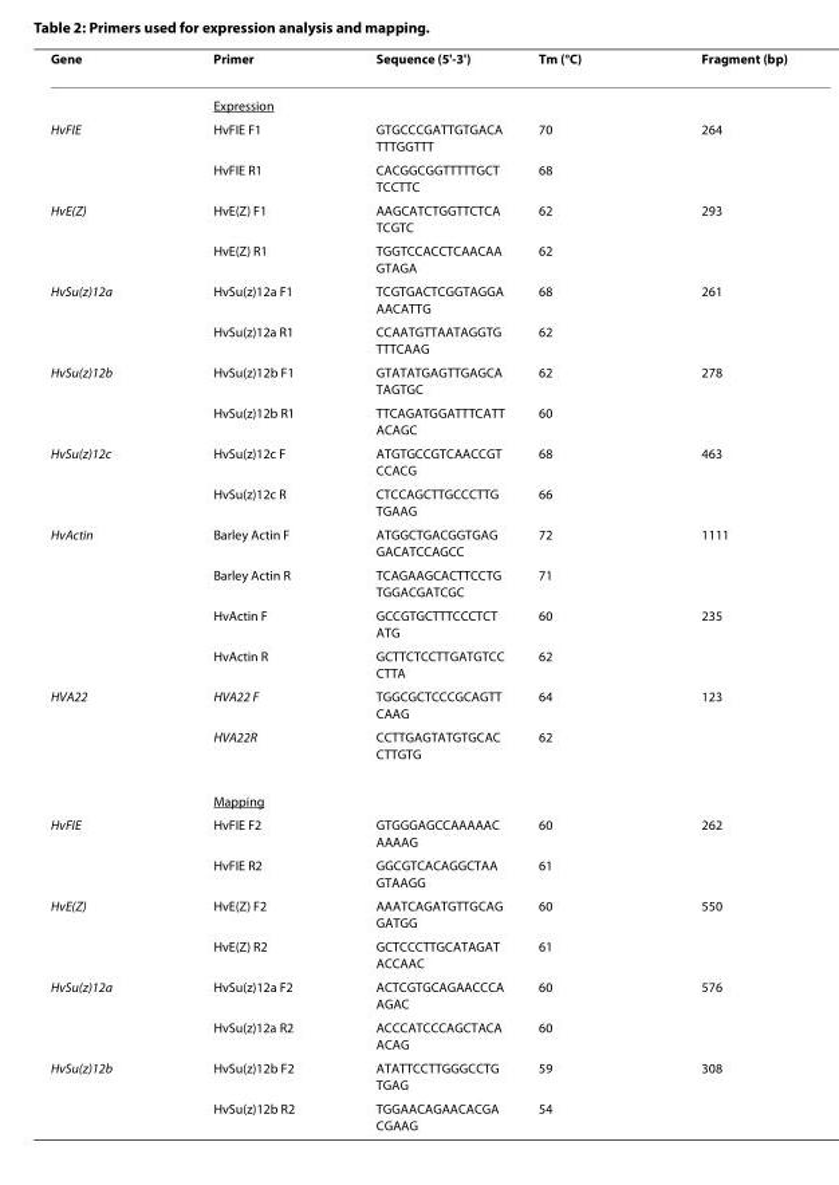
<table><thead><tr><td>Gene</td><td>Primer</td><td>Sequence (5&#x27;-3&#x27;)</td><td>Tm (°C)</td><td>Fragment (bp)</td></tr></thead><tbody><tr><td></td><td>Expression</td><td></td><td></td><td></td></tr><tr><td rowspan="2">HvFIE</td><td>HvFIE F1</td><td>GTGCCCGATTGTGACA TTTGGTTT</td><td>70</td><td>264</td></tr><tr><td>HvFIE R1</td><td>CACGGCGGTTTTTGCT TCCTTC</td><td>68</td><td></td></tr><tr><td rowspan="2">HvE(Z)</td><td>HvE(Z) F1</td><td>AAGCATCTGGTTCTCA TCGTC</td><td>62</td><td>293</td></tr><tr><td>HvE(Z) R1</td><td>TGGTCCACCTCAACAA GTAGA</td><td>62</td><td></td></tr><tr><td rowspan="2">HvSu(z)12a</td><td>HvSu(z)12a F1</td><td>TCGTGACTCGGTAGGA AACATTG</td><td>68</td><td>261</td></tr><tr><td>HvSu(z)12a R1</td><td>CCAATGTTAATAGGTG TTTCAAG</td><td>62</td><td></td></tr><tr><td rowspan="2">HvSu(z)12b</td><td>HvSu(z)12b F1</td><td>GTATATGAGTTGAGCA TAGTGC</td><td>62</td><td>278</td></tr><tr><td>HvSu(z)12b R1</td><td>TTCAGATGGATTTCATT ACAGC</td><td>60</td><td></td></tr><tr><td rowspan="2">HvSu(z)12c</td><td>HvSu(z)12c F</td><td>ATGTGCCGTCAACCGT CCACG</td><td>68</td><td>463</td></tr><tr><td>HvSu(z)12c R</td><td>CTCCAGCTTGCCCTTG TGAAG</td><td>66</td><td></td></tr><tr><td rowspan="4">HvActin</td><td>Barley Actin F</td><td>ATGGCTGACGGTGAG GACATCCAGCC</td><td>72</td><td>1111</td></tr><tr><td>Barley Actin R</td><td>TCAGAAGCACTTCCTG TGGACGATCGC</td><td>71</td><td></td></tr><tr><td>HvActin F</td><td>GCCGTGCTTTCCCTCT ATG</td><td>60</td><td>235</td></tr><tr><td>HvActin R</td><td>GCTTCTCCTTGATGTCC CTTA</td><td>62</td><td></td></tr><tr><td rowspan="3">HVA22</td><td>HVA22 F</td><td>TGGCGCTCCCGCAGTT CAAG</td><td>64</td><td>123</td></tr><tr><td>HVA22R</td><td>CCTTGAGTATGTGCAC CTTGTG</td><td>62</td><td></td></tr><tr><td>Mapping</td><td></td><td></td><td></td></tr><tr><td rowspan="2">HvFIE</td><td>HvFIE F2</td><td>GTGGGAGCCAAAAAC AAAAG</td><td>60</td><td>262</td></tr><tr><td>HvFIE R2</td><td>GGCGTCACAGGCTAA GTAAGG</td><td>61</td><td></td></tr><tr><td rowspan="2">HvE(Z)</td><td>HvE(Z) F2</td><td>AAATCAGATGTTGCAG GATGG</td><td>60</td><td>550</td></tr><tr><td>HvE(Z) R2</td><td>GCTCCCTTGCATAGAT ACCAAC</td><td>61</td><td></td></tr><tr><td rowspan="2">HvSu(z)12a</td><td>HvSu(z)12a F2</td><td>ACTCGTGCAGAACCCA AGAC</td><td>60</td><td>576</td></tr><tr><td>HvSu(z)12a R2</td><td>ACCCATCCCAGCTACA ACAG</td><td>60</td><td></td></tr><tr><td rowspan="2">HvSu(z)12b</td><td>HvSu(z)12b F2</td><td>ATATTCCTTGGGCCTG TGAG</td><td>59</td><td>308</td></tr><tr><td>HvSu(z)12b R2</td><td>TGGAACAGAACACGA CGAAG</td><td>54</td><td></td></tr></tbody></table>